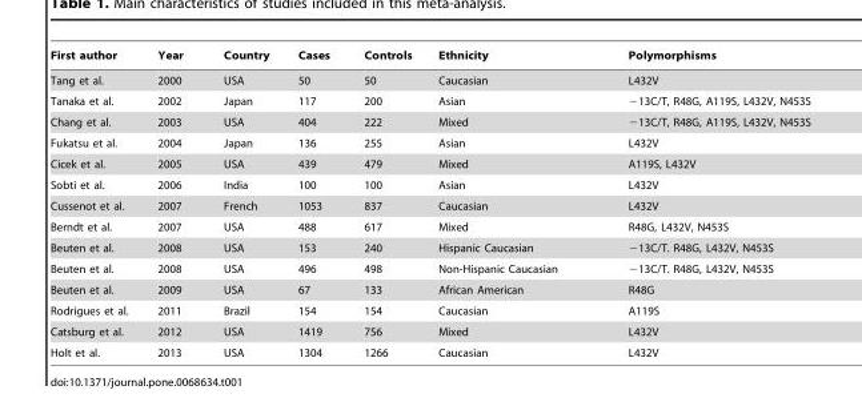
<table><thead><tr><td>First author</td><td>Year</td><td>Country</td><td>Cases</td><td>Controls</td><td>Ethnicity</td><td>Polymorphisms</td></tr></thead><tbody><tr><td>Tang et al.</td><td>2000</td><td>USA</td><td>50</td><td>50</td><td>Caucasian</td><td>L432V</td></tr><tr><td>Tanaka et al.</td><td>2002</td><td>Japan</td><td>117</td><td>200</td><td>Asian</td><td>−13C/T, R48G, A119S, L432V, N453S</td></tr><tr><td>Chang et al.</td><td>2003</td><td>USA</td><td>404</td><td>222</td><td>Mixed</td><td>−13C/T, R48G, A119S, L432V, N453S</td></tr><tr><td>Fukatsu et al.</td><td>2004</td><td>Japan</td><td>136</td><td>255</td><td>Asian</td><td>L432V</td></tr><tr><td>Cicek et al.</td><td>2005</td><td>USA</td><td>439</td><td>479</td><td>Mixed</td><td>A119S, L432V</td></tr><tr><td>Sobti et al.</td><td>2006</td><td>India</td><td>100</td><td>100</td><td>Asian</td><td>L432V</td></tr><tr><td>Cussenot et al.</td><td>2007</td><td>French</td><td>1053</td><td>837</td><td>Caucasian</td><td>L432V</td></tr><tr><td>Berndt et al.</td><td>2007</td><td>USA</td><td>488</td><td>617</td><td>Mixed</td><td>R48G, L432V, N453S</td></tr><tr><td>Beuten et al.</td><td>2008</td><td>USA</td><td>153</td><td>240</td><td>Hispanic Caucasian</td><td>−13C/T. R48G, L432V, N453S</td></tr><tr><td>Beuten et al.</td><td>2008</td><td>USA</td><td>496</td><td>498</td><td>Non-Hispanic Caucasian</td><td>−13C/T. R48G, L432V, N453S</td></tr><tr><td>Beuten et al.</td><td>2009</td><td>USA</td><td>67</td><td>133</td><td>African American</td><td>R48G</td></tr><tr><td>Rodrigues et al.</td><td>2011</td><td>Brazil</td><td>154</td><td>154</td><td>Caucasian</td><td>A119S</td></tr><tr><td>Catsburg et al.</td><td>2012</td><td>USA</td><td>1419</td><td>756</td><td>Mixed</td><td>L432V</td></tr><tr><td>Holt et al.</td><td>2013</td><td>USA</td><td>1304</td><td>1266</td><td>Caucasian</td><td>L432V</td></tr></tbody></table>